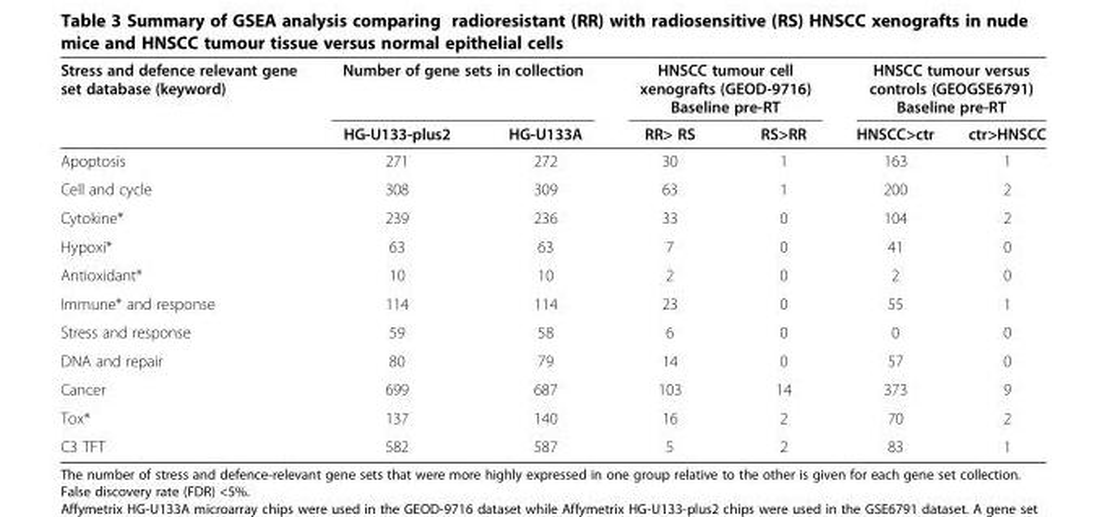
<table><thead><tr><td rowspan="2">Stress and defence relevant gene set database (keyword)</td><td colspan="2">Number of gene sets in collection</td><td colspan="2">HNSCC tumour cell xenografts (GEOD-9716) Baseline pre-RT</td><td colspan="2">HNSCC tumour versus controls (GEOGSE6791) Baseline pre-RT</td></tr><tr><td>HG-U133-plus2</td><td>HG-U133A</td><td>RR&gt; RS</td><td>RS&gt;RR</td><td>HNSCC&gt;ctr</td><td>ctr&gt;HNSCC</td></tr></thead><tbody><tr><td>Apoptosis</td><td>271</td><td>272</td><td>30</td><td>1</td><td>163</td><td>1</td></tr><tr><td>Cell and cycle</td><td>308</td><td>309</td><td>63</td><td>1</td><td>200</td><td>2</td></tr><tr><td>Cytokine*</td><td>239</td><td>236</td><td>33</td><td>0</td><td>104</td><td>2</td></tr><tr><td>Hypoxi*</td><td>63</td><td>63</td><td>7</td><td>0</td><td>41</td><td>0</td></tr><tr><td>Antioxidant*</td><td>10</td><td>10</td><td>2</td><td>0</td><td>2</td><td>0</td></tr><tr><td>Immune* and response</td><td>114</td><td>114</td><td>23</td><td>0</td><td>55</td><td>1</td></tr><tr><td>Stress and response</td><td>59</td><td>58</td><td>6</td><td>0</td><td>0</td><td>0</td></tr><tr><td>DNA and repair</td><td>80</td><td>79</td><td>14</td><td>0</td><td>57</td><td>0</td></tr><tr><td>Cancer</td><td>699</td><td>687</td><td>103</td><td>14</td><td>373</td><td>9</td></tr><tr><td>Tox*</td><td>137</td><td>140</td><td>16</td><td>2</td><td>70</td><td>2</td></tr><tr><td>C3 TFT</td><td>582</td><td>587</td><td>5</td><td>2</td><td>83</td><td>1</td></tr></tbody></table>